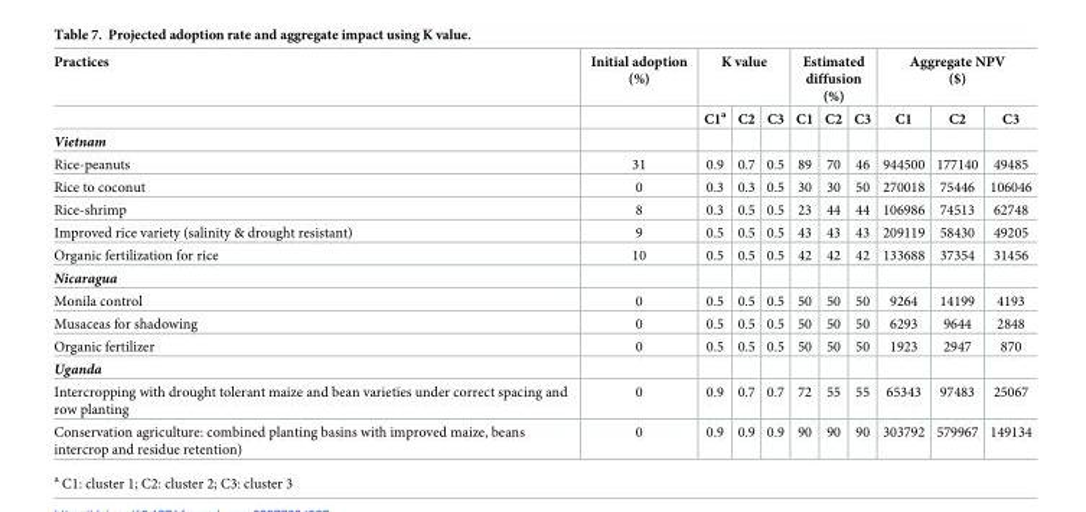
<table><thead><tr><td rowspan="2">Practices</td><td rowspan="2">Initial adoption (%)</td><td colspan="3">K value</td><td colspan="3">Estimated diffusion (%)</td><td colspan="3">Aggregate NPV ($)</td></tr><tr><td>C1<sup>a</sup></td><td>C2</td><td>C3</td><td>C1</td><td>C2</td><td>C3</td><td>C1</td><td>C2</td><td>C3</td></tr></thead><tbody><tr><td colspan="11">Vietnam</td></tr><tr><td>Rice-peanuts</td><td>31</td><td>0.9</td><td>0.7</td><td>0.5</td><td>89</td><td>70</td><td>46</td><td>944500</td><td>177140</td><td>49485</td></tr><tr><td>Rice to coconut</td><td>0</td><td>0.3</td><td>0.3</td><td>0.5</td><td>30</td><td>30</td><td>50</td><td>270018</td><td>75446</td><td>106046</td></tr><tr><td>Rice-shrimp</td><td>8</td><td>0.3</td><td>0.5</td><td>0.5</td><td>23</td><td>44</td><td>44</td><td>106986</td><td>74513</td><td>62748</td></tr><tr><td>Improved rice variety (salinity &amp; drought resistant)</td><td>9</td><td>0.5</td><td>0.5</td><td>0.5</td><td>43</td><td>43</td><td>43</td><td>209119</td><td>58430</td><td>49205</td></tr><tr><td>Organic fertilization for rice</td><td>10</td><td>0.5</td><td>0.5</td><td>0.5</td><td>42</td><td>42</td><td>42</td><td>133688</td><td>37354</td><td>31456</td></tr><tr><td colspan="11">Nicaragua</td></tr><tr><td>Monila control</td><td>0</td><td>0.5</td><td>0.5</td><td>0.5</td><td>50</td><td>50</td><td>50</td><td>9264</td><td>14199</td><td>4193</td></tr><tr><td>Musaceas for shadowing</td><td>0</td><td>0.5</td><td>0.5</td><td>0.5</td><td>50</td><td>50</td><td>50</td><td>6293</td><td>9644</td><td>2848</td></tr><tr><td>Organic fertilizer</td><td>0</td><td>0.5</td><td>0.5</td><td>0.5</td><td>50</td><td>50</td><td>50</td><td>1923</td><td>2947</td><td>870</td></tr><tr><td colspan="11">Uganda</td></tr><tr><td>Intercropping with drought tolerant maize and bean varieties under correct spacing and row planting</td><td>0</td><td>0.9</td><td>0.7</td><td>0.7</td><td>72</td><td>55</td><td>55</td><td>65343</td><td>97483</td><td>25067</td></tr><tr><td>Conservation agriculture: combined planting basins with improved maize, beans intercrop and residue retention)</td><td>0</td><td>0.9</td><td>0.9</td><td>0.9</td><td>90</td><td>90</td><td>90</td><td>303792</td><td>579967</td><td>149134</td></tr></tbody></table>